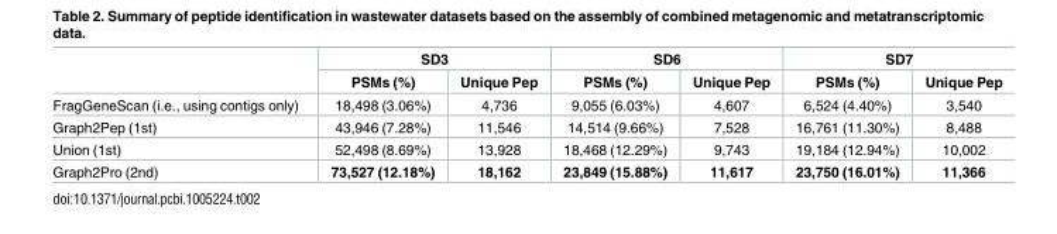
<table><thead><tr><td rowspan="2"></td><td colspan="2">SD3</td><td colspan="2">SD6</td><td colspan="2">SD7</td></tr><tr><td>PSMs (%)</td><td>Unique Pep</td><td>PSMs (%)</td><td>Unique Pep</td><td>PSMs (%)</td><td>Unique Pep</td></tr></thead><tbody><tr><td>FragGeneScan (i.e., using contigs only)</td><td>18,498 (3.06%)</td><td>4,736</td><td>9,055 (6.03%)</td><td>4,607</td><td>6,524 (4.40%)</td><td>3,540</td></tr><tr><td>Graph2Pep (1st)</td><td>43,946 (7.28%)</td><td>11,546</td><td>14,514 (9.66%)</td><td>7,528</td><td>16,761 (11.30%)</td><td>8,488</td></tr><tr><td>Union (1st)</td><td>52,498 (8.69%)</td><td>13,928</td><td>18,468 (12.29%)</td><td>9,743</td><td>19,184 (12.94%)</td><td>10,002</td></tr><tr><td>Graph2Pro (2nd)</td><td>73,527 (12.18%)</td><td>18,162</td><td>23,849 (15.88%)</td><td>11,617</td><td>23,750 (16.01%)</td><td>11,366</td></tr></tbody></table>